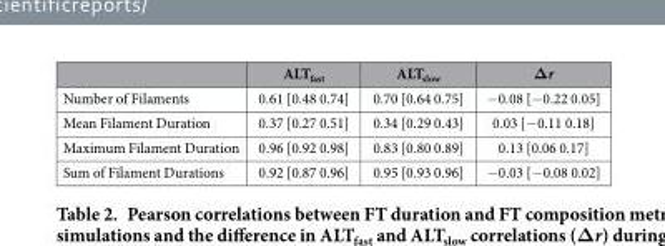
<table><thead><tr><td></td><td>ALT<sub>fast</sub></td><td>ALT<sub>slow</sub></td><td>Δr</td></tr></thead><tbody><tr><td>Number of Filaments</td><td>0.61 [0.48 0.74]</td><td>0.70 [0.64 0.75]</td><td>− 0.08 [− 0.22 0.05]</td></tr><tr><td>Mean Filament Duration</td><td>0.37 [0.27 0.51]</td><td>0.34 [0.29 0.43]</td><td>0.03 [− 0.11 0.18]</td></tr><tr><td>Maximum Filament Duration</td><td>0.96 [0.92 0.98]</td><td>0.83 [0.80 0.89]</td><td>0.13 [0.06 0.17]</td></tr><tr><td>Sum of Filament Durations</td><td>0.92 [0.87 0.96]</td><td>0.95 [0.93 0.96]</td><td>− 0.03 [− 0.08 0.02]</td></tr></tbody></table>